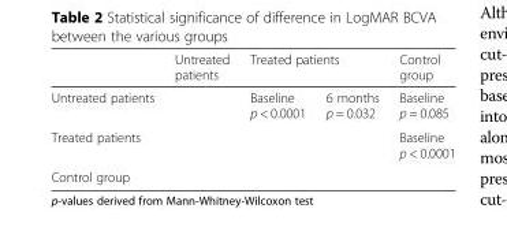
<table><thead><tr><td rowspan="2">Untreated patients</td><td rowspan="2">Untreated patients</td><td colspan="2">Treated patients</td><td rowspan="2">Control group Baseline p = 0.085</td></tr><tr><td>Baseline p &lt; 0.0001</td><td>6 months p = 0.032</td></tr></thead><tbody><tr><td>Treated patients</td><td></td><td colspan="2"></td><td>Baseline p &lt; 0.0001</td></tr><tr><td>Control group</td><td></td><td colspan="2"></td><td></td></tr></tbody></table>